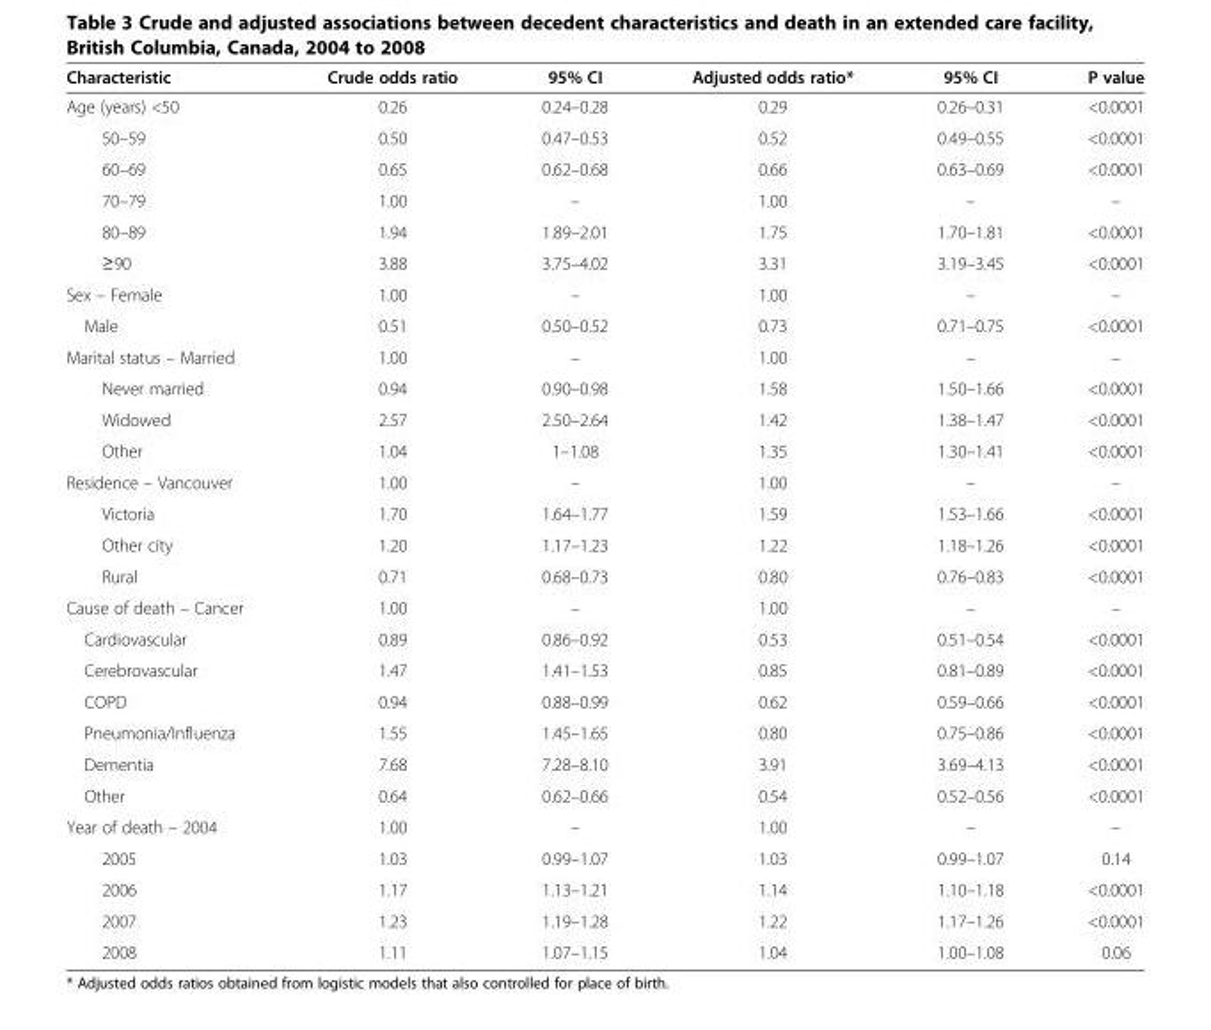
<table><thead><tr><td>Characteristic</td><td>Crude odds ratio</td><td>95% CI</td><td>Adjusted odds ratio*</td><td>95% CI</td><td>P value</td></tr></thead><tbody><tr><td>Age (years) &lt;50</td><td>0.26</td><td>0.24–0.28</td><td>0.29</td><td>0.26–0.31</td><td>&lt;0.0001</td></tr><tr><td>50–59</td><td>0.50</td><td>0.47–0.53</td><td>0.52</td><td>0.49–0.55</td><td>&lt;0.0001</td></tr><tr><td>60–69</td><td>0.65</td><td>0.62–0.68</td><td>0.66</td><td>0.63–0.69</td><td>&lt;0.0001</td></tr><tr><td>70–79</td><td>1.00</td><td>–</td><td>1.00</td><td>–</td><td>–</td></tr><tr><td>80–89</td><td>1.94</td><td>1.89–2.01</td><td>1.75</td><td>1.70–1.81</td><td>&lt;0.0001</td></tr><tr><td>≥90</td><td>3.88</td><td>3.75–4.02</td><td>3.31</td><td>3.19–3.45</td><td>&lt;0.0001</td></tr><tr><td>Sex – Female</td><td>1.00</td><td>–</td><td>1.00</td><td>–</td><td>–</td></tr><tr><td>Male</td><td>0.51</td><td>0.50–0.52</td><td>0.73</td><td>0.71–0.75</td><td>&lt;0.0001</td></tr><tr><td>Marital status – Married</td><td>1.00</td><td>–</td><td>1.00</td><td>–</td><td>–</td></tr><tr><td>Never married</td><td>0.94</td><td>0.90–0.98</td><td>1.58</td><td>1.50–1.66</td><td>&lt;0.0001</td></tr><tr><td>Widowed</td><td>2.57</td><td>2.50–2.64</td><td>1.42</td><td>1.38–1.47</td><td>&lt;0.0001</td></tr><tr><td>Other</td><td>1.04</td><td>1–1.08</td><td>1.35</td><td>1.30–1.41</td><td>&lt;0.0001</td></tr><tr><td>Residence – Vancouver</td><td>1.00</td><td>–</td><td>1.00</td><td>–</td><td>–</td></tr><tr><td>Victoria</td><td>1.70</td><td>1.64–1.77</td><td>1.59</td><td>1.53–1.66</td><td>&lt;0.0001</td></tr><tr><td>Other city</td><td>1.20</td><td>1.17–1.23</td><td>1.22</td><td>1.18–1.26</td><td>&lt;0.0001</td></tr><tr><td>Rural</td><td>0.71</td><td>0.68–0.73</td><td>0.80</td><td>0.76–0.83</td><td>&lt;0.0001</td></tr><tr><td>Cause of death – Cancer</td><td>1.00</td><td>–</td><td>1.00</td><td>–</td><td>–</td></tr><tr><td>Cardiovascular</td><td>0.89</td><td>0.86–0.92</td><td>0.53</td><td>0.51–0.54</td><td>&lt;0.0001</td></tr><tr><td>Cerebrovascular</td><td>1.47</td><td>1.41–1.53</td><td>0.85</td><td>0.81–0.89</td><td>&lt;0.0001</td></tr><tr><td>COPD</td><td>0.94</td><td>0.88–0.99</td><td>0.62</td><td>0.59–0.66</td><td>&lt;0.0001</td></tr><tr><td>Pneumonia/Influenza</td><td>1.55</td><td>1.45–1.65</td><td>0.80</td><td>0.75–0.86</td><td>&lt;0.0001</td></tr><tr><td>Dementia</td><td>7.68</td><td>7.28–8.10</td><td>3.91</td><td>3.69–4.13</td><td>&lt;0.0001</td></tr><tr><td>Other</td><td>0.64</td><td>0.62–0.66</td><td>0.54</td><td>0.52–0.56</td><td>&lt;0.0001</td></tr><tr><td>Year of death – 2004</td><td>1.00</td><td>–</td><td>1.00</td><td>–</td><td>–</td></tr><tr><td>2005</td><td>1.03</td><td>0.99–1.07</td><td>1.03</td><td>0.99–1.07</td><td>0.14</td></tr><tr><td>2006</td><td>1.17</td><td>1.13–1.21</td><td>1.14</td><td>1.10–1.18</td><td>&lt;0.0001</td></tr><tr><td>2007</td><td>1.23</td><td>1.19–1.28</td><td>1.22</td><td>1.17–1.26</td><td>&lt;0.0001</td></tr><tr><td>2008</td><td>1.11</td><td>1.07–1.15</td><td>1.04</td><td>1.00–1.08</td><td>0.06</td></tr></tbody></table>